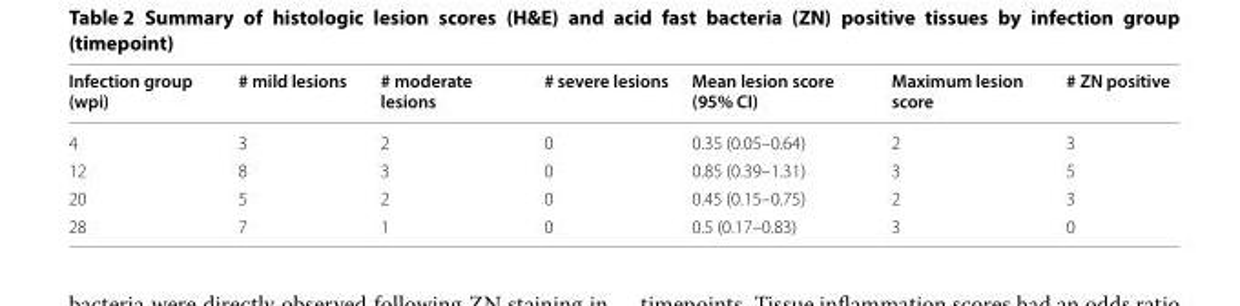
<table><thead><tr><td>Infection group (wpi)</td><td># mild lesions</td><td># moderate lesions</td><td># severe lesions</td><td>Mean lesion score (95% CI)</td><td>Maximum lesion score</td><td># ZN positive</td></tr></thead><tbody><tr><td>4</td><td>3</td><td>2</td><td>0</td><td>0.35 (0.05–0.64)</td><td>2</td><td>3</td></tr><tr><td>12</td><td>8</td><td>3</td><td>0</td><td>0.85 (0.39–1.31)</td><td>3</td><td>5</td></tr><tr><td>20</td><td>5</td><td>2</td><td>0</td><td>0.45 (0.15–0.75)</td><td>2</td><td>3</td></tr><tr><td>28</td><td>7</td><td>1</td><td>0</td><td>0.5 (0.17–0.83)</td><td>3</td><td>0</td></tr></tbody></table>